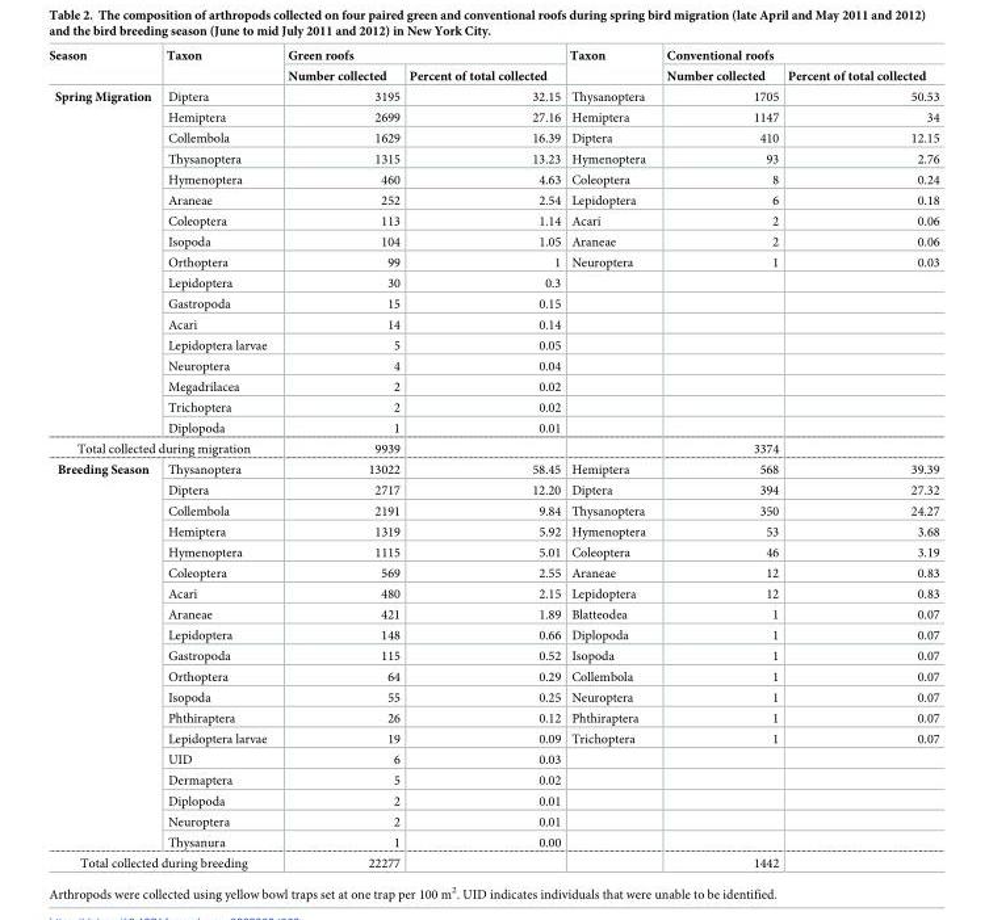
<table><thead><tr><td rowspan="2">Season</td><td rowspan="2">Taxon</td><td colspan="2">Green roofs</td><td rowspan="2">Taxon</td><td colspan="2">Conventional roofs</td></tr><tr><td>Number collected</td><td>Percent of total collected</td><td>Number collected</td><td>Percent of total collected</td></tr></thead><tbody><tr><td rowspan="17">Spring Migration</td><td>Diptera</td><td>3195</td><td>32.15</td><td>Thysanoptera</td><td>1705</td><td>50.53</td></tr><tr><td>Hemiptera</td><td>2699</td><td>27.16</td><td>Hemiptera</td><td>1147</td><td>34</td></tr><tr><td>Collembola</td><td>1629</td><td>16.39</td><td>Diptera</td><td>410</td><td>12.15</td></tr><tr><td>Thysanoptera</td><td>1315</td><td>13.23</td><td>Hymenoptera</td><td>93</td><td>2.76</td></tr><tr><td>Hymenoptera</td><td>460</td><td>4.63</td><td>Coleoptera</td><td>8</td><td>0.24</td></tr><tr><td>Araneae</td><td>252</td><td>2.54</td><td>Lepidoptera</td><td>6</td><td>0.18</td></tr><tr><td>Coleoptera</td><td>113</td><td>1.14</td><td>Acari</td><td>2</td><td>0.06</td></tr><tr><td>Isopoda</td><td>104</td><td>1.05</td><td>Araneae</td><td>2</td><td>0.06</td></tr><tr><td>Orthoptera</td><td>99</td><td>1</td><td>Neuroptera</td><td>1</td><td>0.03</td></tr><tr><td>Lepidoptera</td><td>30</td><td>0.3</td><td></td><td></td><td></td></tr><tr><td>Gastropoda</td><td>15</td><td>0.15</td><td></td><td></td><td></td></tr><tr><td>Acari</td><td>14</td><td>0.14</td><td></td><td></td><td></td></tr><tr><td>Lepidoptera larvae</td><td>5</td><td>0.05</td><td></td><td></td><td></td></tr><tr><td>Neuroptera</td><td>4</td><td>0.04</td><td></td><td></td><td></td></tr><tr><td>Megadrilacea</td><td>2</td><td>0.02</td><td></td><td></td><td></td></tr><tr><td>Trichoptera</td><td>2</td><td>0.02</td><td></td><td></td><td></td></tr><tr><td>Diplopoda</td><td>1</td><td>0.01</td><td></td><td></td><td></td></tr><tr><td colspan="2">Total collected during migration</td><td>9939</td><td></td><td></td><td>3374</td><td></td></tr><tr><td rowspan="19">Breeding Season</td><td>Thysanoptera</td><td>13022</td><td>58.45</td><td>Hemiptera</td><td>568</td><td>39.39</td></tr><tr><td>Diptera</td><td>2717</td><td>12.20</td><td>Diptera</td><td>394</td><td>27.32</td></tr><tr><td>Collembola</td><td>2191</td><td>9.84</td><td>Thysanoptera</td><td>350</td><td>24.27</td></tr><tr><td>Hemiptera</td><td>1319</td><td>5.92</td><td>Hymenoptera</td><td>53</td><td>3.68</td></tr><tr><td>Hymenoptera</td><td>1115</td><td>5.01</td><td>Coleoptera</td><td>46</td><td>3.19</td></tr><tr><td>Coleoptera</td><td>569</td><td>2.55</td><td>Araneae</td><td>12</td><td>0.83</td></tr><tr><td>Acari</td><td>480</td><td>2.15</td><td>Lepidoptera</td><td>12</td><td>0.83</td></tr><tr><td>Araneae</td><td>421</td><td>1.89</td><td>Blatteodea</td><td>1</td><td>0.07</td></tr><tr><td>Lepidoptera</td><td>148</td><td>0.66</td><td>Diplopoda</td><td>1</td><td>0.07</td></tr><tr><td>Gastropoda</td><td>115</td><td>0.52</td><td>Isopoda</td><td>1</td><td>0.07</td></tr><tr><td>Orthoptera</td><td>64</td><td>0.29</td><td>Collembola</td><td>1</td><td>0.07</td></tr><tr><td>Isopoda</td><td>55</td><td>0.25</td><td>Neuroptera</td><td>1</td><td>0.07</td></tr><tr><td>Phthiraptera</td><td>26</td><td>0.12</td><td>Phthiraptera</td><td>1</td><td>0.07</td></tr><tr><td>Lepidoptera larvae</td><td>19</td><td>0.09</td><td>Trichoptera</td><td>1</td><td>0.07</td></tr><tr><td>UID</td><td>6</td><td>0.03</td><td></td><td></td><td></td></tr><tr><td>Dermaptera</td><td>5</td><td>0.02</td><td></td><td></td><td></td></tr><tr><td>Diplopoda</td><td>2</td><td>0.01</td><td></td><td></td><td></td></tr><tr><td>Neuroptera</td><td>2</td><td>0.01</td><td></td><td></td><td></td></tr><tr><td>Thysanura</td><td>1</td><td>0.00</td><td></td><td></td><td></td></tr><tr><td colspan="2">Total collected during breeding</td><td>22277</td><td></td><td></td><td>1442</td><td></td></tr></tbody></table>